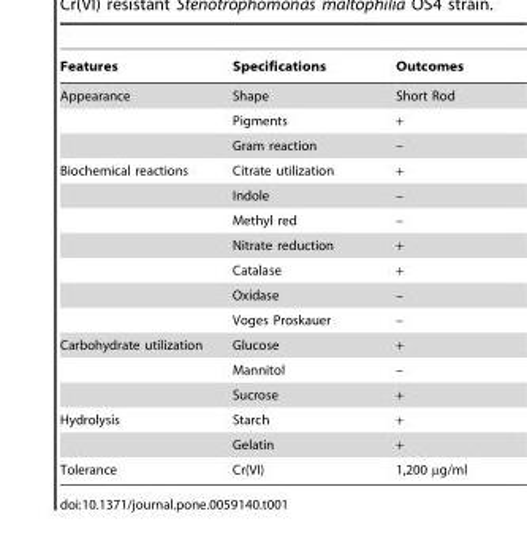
<table><thead><tr><td>Features</td><td>Specifications</td><td>Outcomes</td></tr></thead><tbody><tr><td rowspan="3">Appearance</td><td>Shape</td><td>Short Rod</td></tr><tr><td>Pigments</td><td>+</td></tr><tr><td>Gram reaction</td><td>–</td></tr><tr><td rowspan="7">Biochemical reactions</td><td>Citrate utilization</td><td>+</td></tr><tr><td>Indole</td><td>–</td></tr><tr><td>Methyl red</td><td>–</td></tr><tr><td>Nitrate reduction</td><td>+</td></tr><tr><td>Catalase</td><td>+</td></tr><tr><td>Oxidase</td><td>–</td></tr><tr><td>Voges Proskauer</td><td>–</td></tr><tr><td rowspan="3">Carbohydrate utilization</td><td>Glucose</td><td>+</td></tr><tr><td>Mannitol</td><td>–</td></tr><tr><td>Sucrose</td><td>+</td></tr><tr><td rowspan="2">Hydrolysis</td><td>Starch</td><td>+</td></tr><tr><td>Gelatin</td><td>+</td></tr><tr><td>Tolerance</td><td>Cr(VI)</td><td>1,200 µg/ml</td></tr></tbody></table>